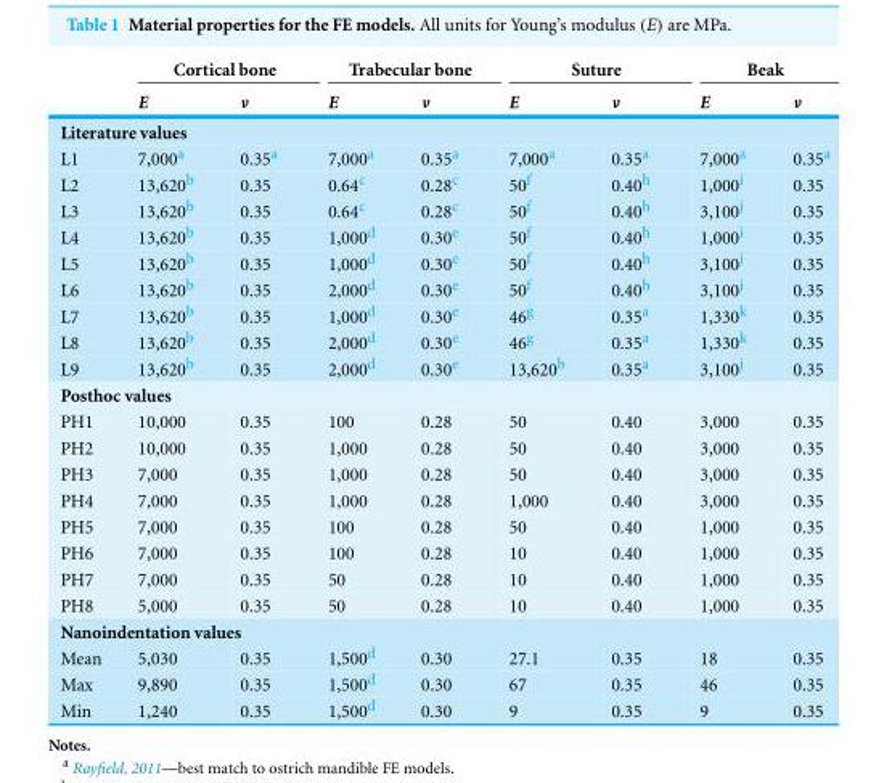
<table><thead><tr><td rowspan="2"></td><td colspan="2">Cortical bone</td><td colspan="2">Trabecular bone</td><td colspan="2">Suture</td><td colspan="2">Beak</td></tr><tr><td>E</td><td>ν</td><td>E</td><td>ν</td><td>E</td><td>ν</td><td>E</td><td>ν</td></tr></thead><tbody><tr><td colspan="9">Literature values</td></tr><tr><td>L1</td><td>7,000<sup>a</sup></td><td>0.35<sup>a</sup></td><td>7,000<sup>a</sup></td><td>0.35<sup>a</sup></td><td>7,000<sup>a</sup></td><td>0.35<sup>a</sup></td><td>7,000<sup>a</sup></td><td>0.35<sup>a</sup></td></tr><tr><td>L2</td><td>13,620<sup>b</sup></td><td>0.35</td><td>0.64<sup>c</sup></td><td>0.28<sup>c</sup></td><td>50<sup>f</sup></td><td>0.40<sup>h</sup></td><td>1,000<sup>i</sup></td><td>0.35</td></tr><tr><td>L3</td><td>13,620<sup>b</sup></td><td>0.35</td><td>0.64<sup>c</sup></td><td>0.28<sup>c</sup></td><td>50<sup>f</sup></td><td>0.40<sup>h</sup></td><td>3,100<sup>j</sup></td><td>0.35</td></tr><tr><td>L4</td><td>13,620<sup>b</sup></td><td>0.35</td><td>1,000<sup>d</sup></td><td>0.30<sup>e</sup></td><td>50<sup>f</sup></td><td>0.40<sup>h</sup></td><td>1,000<sup>i</sup></td><td>0.35</td></tr><tr><td>L5</td><td>13,620<sup>b</sup></td><td>0.35</td><td>1,000<sup>d</sup></td><td>0.30<sup>e</sup></td><td>50<sup>f</sup></td><td>0.40<sup>h</sup></td><td>3,100<sup>j</sup></td><td>0.35</td></tr><tr><td>L6</td><td>13,620<sup>b</sup></td><td>0.35</td><td>2,000<sup>d</sup></td><td>0.30<sup>e</sup></td><td>50<sup>f</sup></td><td>0.40<sup>h</sup></td><td>3,100<sup>j</sup></td><td>0.35</td></tr><tr><td>L7</td><td>13,620<sup>b</sup></td><td>0.35</td><td>1,000<sup>d</sup></td><td>0.30<sup>e</sup></td><td>46<sup>g</sup></td><td>0.35<sup>a</sup></td><td>1,330<sup>k</sup></td><td>0.35</td></tr><tr><td>L8</td><td>13,620<sup>b</sup></td><td>0.35</td><td>2,000<sup>d</sup></td><td>0.30<sup>e</sup></td><td>46<sup>g</sup></td><td>0.35<sup>a</sup></td><td>1,330<sup>k</sup></td><td>0.35</td></tr><tr><td>L9</td><td>13,620<sup>b</sup></td><td>0.35</td><td>2,000<sup>d</sup></td><td>0.30<sup>e</sup></td><td>13,620<sup>b</sup></td><td>0.35<sup>a</sup></td><td>3,100<sup>j</sup></td><td>0.35</td></tr><tr><td colspan="9">Posthoc values</td></tr><tr><td>PH1</td><td>10,000</td><td>0.35</td><td>100</td><td>0.28</td><td>50</td><td>0.40</td><td>3,000</td><td>0.35</td></tr><tr><td>PH2</td><td>10,000</td><td>0.35</td><td>1,000</td><td>0.28</td><td>50</td><td>0.40</td><td>3,000</td><td>0.35</td></tr><tr><td>PH3</td><td>7,000</td><td>0.35</td><td>1,000</td><td>0.28</td><td>50</td><td>0.40</td><td>3,000</td><td>0.35</td></tr><tr><td>PH4</td><td>7,000</td><td>0.35</td><td>1,000</td><td>0.28</td><td>1,000</td><td>0.40</td><td>3,000</td><td>0.35</td></tr><tr><td>PH5</td><td>7,000</td><td>0.35</td><td>100</td><td>0.28</td><td>50</td><td>0.40</td><td>1,000</td><td>0.35</td></tr><tr><td>PH6</td><td>7,000</td><td>0.35</td><td>100</td><td>0.28</td><td>10</td><td>0.40</td><td>1,000</td><td>0.35</td></tr><tr><td>PH7</td><td>7,000</td><td>0.35</td><td>50</td><td>0.28</td><td>10</td><td>0.40</td><td>1,000</td><td>0.35</td></tr><tr><td>PH8</td><td>5,000</td><td>0.35</td><td>50</td><td>0.28</td><td>10</td><td>0.40</td><td>1,000</td><td>0.35</td></tr><tr><td colspan="9">Nanoindentation values</td></tr><tr><td>Mean</td><td>5,030</td><td>0.35</td><td>1,500<sup>d</sup></td><td>0.30</td><td>27.1</td><td>0.35</td><td>18</td><td>0.35</td></tr><tr><td>Max</td><td>9,890</td><td>0.35</td><td>1,500<sup>d</sup></td><td>0.30</td><td>67</td><td>0.35</td><td>46</td><td>0.35</td></tr><tr><td>Min</td><td>1,240</td><td>0.35</td><td>1,500<sup>d</sup></td><td>0.30</td><td>9</td><td>0.35</td><td>9</td><td>0.35</td></tr></tbody></table>